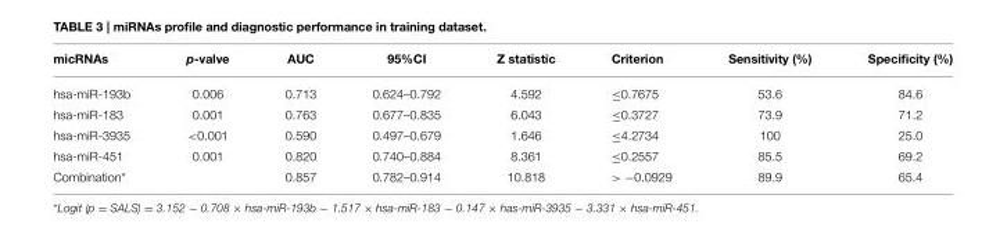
<table><thead><tr><td>micRNAs</td><td>p-valve</td><td>AUC</td><td>95%CI</td><td>Z statistic</td><td>Criterion</td><td>Sensitivity (%)</td><td>Specificity (%)</td></tr></thead><tbody><tr><td>hsa-miR-193b</td><td>0.006</td><td>0.713</td><td>0.624–0.792</td><td>4.592</td><td>≤0.7675</td><td>53.6</td><td>84.6</td></tr><tr><td>hsa-miR-183</td><td>0.001</td><td>0.763</td><td>0.677–0.835</td><td>6.043</td><td>≤0.3727</td><td>73.9</td><td>71.2</td></tr><tr><td>hsa-miR-3935</td><td>&lt;0.001</td><td>0.590</td><td>0.497–0.679</td><td>1.646</td><td>≤4.2734</td><td>100</td><td>25.0</td></tr><tr><td>hsa-miR-451</td><td>0.001</td><td>0.820</td><td>0.740–0.884</td><td>8.361</td><td>≤0.2557</td><td>85.5</td><td>69.2</td></tr><tr><td>Combination*</td><td></td><td>0.857</td><td>0.782–0.914</td><td>10.818</td><td>&gt; −0.0929</td><td>89.9</td><td>65.4</td></tr></tbody></table>